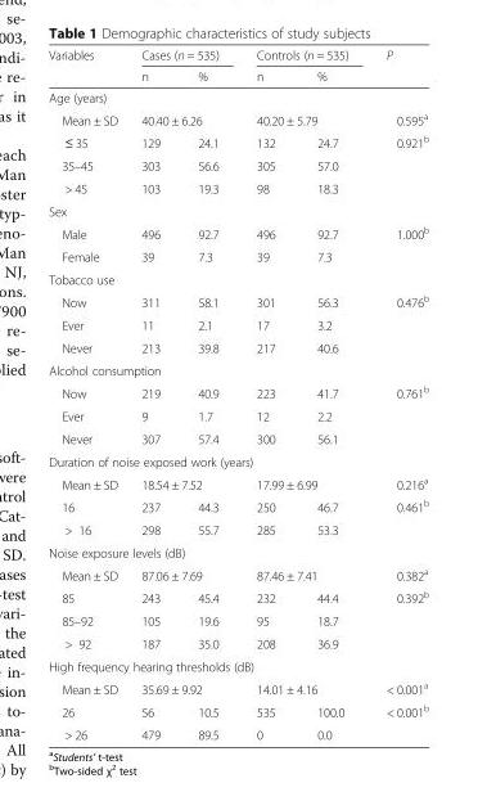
<table><thead><tr><td rowspan="2">Variables</td><td colspan="2">Cases (n = 535)</td><td colspan="2">Controls (n = 535)</td><td rowspan="2">P</td></tr><tr><td>n</td><td>%</td><td>n</td><td>%</td></tr></thead><tbody><tr><td colspan="6">Age (years)</td></tr><tr><td>Mean ± SD</td><td colspan="2">40.40 ± 6.26</td><td colspan="2">40.20 ± 5.79</td><td>0.595<sup>a</sup></td></tr><tr><td>≤ 35</td><td>129</td><td>24.1</td><td>132</td><td>24.7</td><td>0.921<sup>b</sup></td></tr><tr><td>35–45</td><td>303</td><td>56.6</td><td>305</td><td>57.0</td><td></td></tr><tr><td>&gt; 45</td><td>103</td><td>19.3</td><td>98</td><td>18.3</td><td></td></tr><tr><td colspan="6">Sex</td></tr><tr><td>Male</td><td>496</td><td>92.7</td><td>496</td><td>92.7</td><td>1.000<sup>b</sup></td></tr><tr><td>Female</td><td>39</td><td>7.3</td><td>39</td><td>7.3</td><td></td></tr><tr><td colspan="6">Tobacco use</td></tr><tr><td>Now</td><td>311</td><td>58.1</td><td>301</td><td>56.3</td><td>0.476<sup>b</sup></td></tr><tr><td>Ever</td><td>11</td><td>2.1</td><td>17</td><td>3.2</td><td></td></tr><tr><td>Never</td><td>213</td><td>39.8</td><td>217</td><td>40.6</td><td></td></tr><tr><td colspan="6">Alcohol consumption</td></tr><tr><td>Now</td><td>219</td><td>40.9</td><td>223</td><td>41.7</td><td>0.761<sup>b</sup></td></tr><tr><td>Ever</td><td>9</td><td>1.7</td><td>12</td><td>2.2</td><td></td></tr><tr><td>Never</td><td>307</td><td>57.4</td><td>300</td><td>56.1</td><td></td></tr><tr><td colspan="6">Duration of noise exposed work (years)</td></tr><tr><td>Mean ± SD</td><td colspan="2">18.54 ± 7.52</td><td colspan="2">17.99 ± 6.99</td><td>0.216<sup>a</sup></td></tr><tr><td>16</td><td>237</td><td>44.3</td><td>250</td><td>46.7</td><td>0.461<sup>b</sup></td></tr><tr><td>&gt; 16</td><td>298</td><td>55.7</td><td>285</td><td>53.3</td><td></td></tr><tr><td colspan="6">Noise exposure levels (dB)</td></tr><tr><td>Mean ± SD</td><td colspan="2">87.06 ± 7.69</td><td colspan="2">87.46 ± 7.41</td><td>0.382<sup>a</sup></td></tr><tr><td>85</td><td>243</td><td>45.4</td><td>232</td><td>44.4</td><td>0.392<sup>b</sup></td></tr><tr><td>85–92</td><td>105</td><td>19.6</td><td>95</td><td>18.7</td><td></td></tr><tr><td>&gt; 92</td><td>187</td><td>35.0</td><td>208</td><td>36.9</td><td></td></tr><tr><td colspan="6">High frequency hearing thresholds (dB)</td></tr><tr><td>Mean ± SD</td><td colspan="2">35.69 ± 9.92</td><td colspan="2">14.01 ± 4.16</td><td>&lt; 0.001<sup>a</sup></td></tr><tr><td>26</td><td>56</td><td>10.5</td><td>535</td><td>100.0</td><td>&lt; 0.001<sup>b</sup></td></tr><tr><td>&gt; 26</td><td>479</td><td>89.5</td><td>0</td><td>0.0</td><td></td></tr></tbody></table>